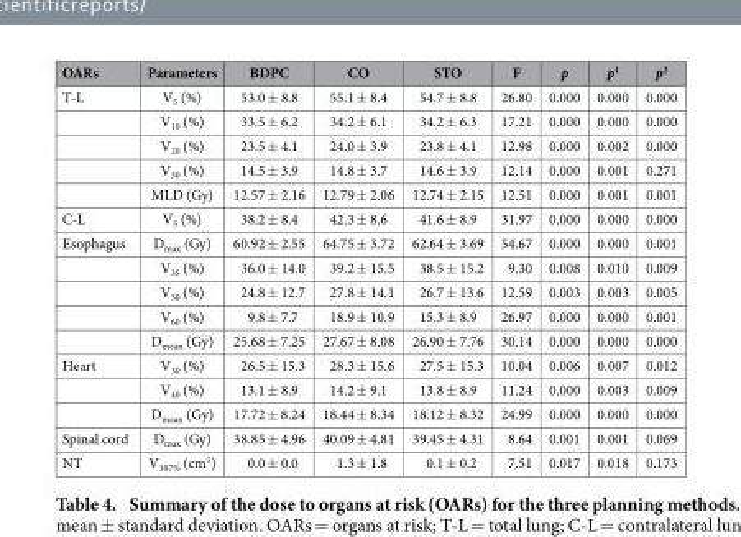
<table><thead><tr><td>OARs</td><td>Parameters</td><td>BDPC</td><td>CO</td><td>STO</td><td>F</td><td>p</td><td>p<sup>1</sup></td><td>p<sup>2</sup></td></tr></thead><tbody><tr><td rowspan="5">T-L</td><td>V<sub>5</sub> (%)</td><td>53.0 ± 8.8</td><td>55.1 ± 8.4</td><td>54.7 ± 8.8</td><td>26.80</td><td>0.000</td><td>0.000</td><td>0.000</td></tr><tr><td>V<sub>10</sub> (%)</td><td>33.5 ± 6.2</td><td>34.2 ± 6.1</td><td>34.2 ± 6.3</td><td>17.21</td><td>0.000</td><td>0.000</td><td>0.000</td></tr><tr><td>V<sub>20</sub> (%)</td><td>23.5 ± 4.1</td><td>24.0 ± 3.9</td><td>23.8 ± 4.1</td><td>12.98</td><td>0.000</td><td>0.002</td><td>0.000</td></tr><tr><td>V<sub>30</sub> (%)</td><td>14.5 ± 3.9</td><td>14.8 ± 3.7</td><td>14.6 ± 3.9</td><td>12.14</td><td>0.000</td><td>0.001</td><td>0.271</td></tr><tr><td>MLD (Gy)</td><td>12.57 ± 2.16</td><td>12.79 ± 2.06</td><td>12.74 ± 2.15</td><td>12.51</td><td>0.000</td><td>0.001</td><td>0.001</td></tr><tr><td>C-L</td><td>V<sub>5</sub> (%)</td><td>38.2 ± 8.4</td><td>42.3 ± 8.6</td><td>41.6 ± 8.9</td><td>31.97</td><td>0.000</td><td>0.000</td><td>0.000</td></tr><tr><td rowspan="5">Esophagus</td><td>D<sub>max</sub> (Gy)</td><td>60.92 ± 2.55</td><td>64.75 ± 3.72</td><td>62.64 ± 3.69</td><td>54.67</td><td>0.000</td><td>0.000</td><td>0.001</td></tr><tr><td>V<sub>35</sub> (%)</td><td>36.0 ± 14.0</td><td>39.2 ± 15.5</td><td>38.5 ± 15.2</td><td>9.30</td><td>0.008</td><td>0.010</td><td>0.009</td></tr><tr><td>V<sub>50</sub> (%)</td><td>24.8 ± 12.7</td><td>27.8 ± 14.1</td><td>26.7 ± 13.6</td><td>12.59</td><td>0.003</td><td>0.003</td><td>0.005</td></tr><tr><td>V<sub>60</sub> (%)</td><td>9.8 ± 7.7</td><td>18.9 ± 10.9</td><td>15.3 ± 8.9</td><td>26.97</td><td>0.000</td><td>0.000</td><td>0.001</td></tr><tr><td>D<sub>mean</sub> (Gy)</td><td>25.68 ± 7.25</td><td>27.67 ± 8.08</td><td>26.90 ± 7.76</td><td>30.14</td><td>0.000</td><td>0.000</td><td>0.000</td></tr><tr><td rowspan="3">Heart</td><td>V<sub>30</sub> (%)</td><td>26.5 ± 15.3</td><td>28.3 ± 15.6</td><td>27.5 ± 15.3</td><td>10.04</td><td>0.006</td><td>0.007</td><td>0.012</td></tr><tr><td>V<sub>40</sub> (%)</td><td>13.1 ± 8.9</td><td>14.2 ± 9.1</td><td>13.8 ± 8.9</td><td>11.24</td><td>0.000</td><td>0.003</td><td>0.009</td></tr><tr><td>D<sub>mean</sub> (Gy)</td><td>17.72 ± 8.24</td><td>18.44 ± 8.34</td><td>18.12 ± 8.32</td><td>24.99</td><td>0.000</td><td>0.000</td><td>0.000</td></tr><tr><td>Spinal cord</td><td>D<sub>max</sub> (Gy)</td><td>38.85 ± 4.96</td><td>40.09 ± 4.81</td><td>39.45 ± 4.31</td><td>8.64</td><td>0.001</td><td>0.001</td><td>0.069</td></tr><tr><td>NT</td><td>V<sub>107%</sub> (cm<sup>3</sup>)</td><td>0.0 ± 0.0</td><td>1.3 ± 1.8</td><td>0.1 ± 0.2</td><td>7.51</td><td>0.017</td><td>0.018</td><td>0.173</td></tr></tbody></table>